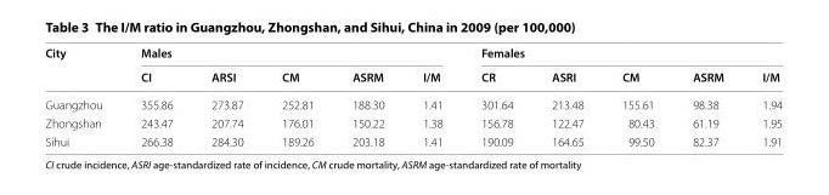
<table><thead><tr><td rowspan="2">City</td><td colspan="5">Males</td><td colspan="5">Females</td></tr><tr><td>CI</td><td>ARSI</td><td>CM</td><td>ASRM</td><td>I/M</td><td>CR</td><td>ASRI</td><td>CM</td><td>ASRM</td><td>I/M</td></tr></thead><tbody><tr><td>Guangzhou</td><td>355.86</td><td>273.87</td><td>252.81</td><td>188.30</td><td>1.41</td><td>301.64</td><td>213.48</td><td>155.61</td><td>98.38</td><td>1.94</td></tr><tr><td>Zhongshan</td><td>243.47</td><td>207.74</td><td>176.01</td><td>150.22</td><td>1.38</td><td>156.78</td><td>122.47</td><td>80.43</td><td>61.19</td><td>1.95</td></tr><tr><td>Sihui</td><td>266.38</td><td>284.30</td><td>189.26</td><td>203.18</td><td>1.41</td><td>190.09</td><td>164.65</td><td>99.50</td><td>82.37</td><td>1.91</td></tr></tbody></table>